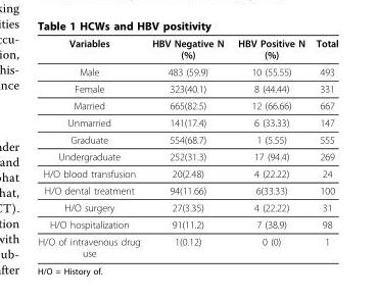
<table><thead><tr><td>Variables</td><td>HBV Negative N (%)</td><td>HBV Positive N (%)</td><td>Total</td></tr></thead><tbody><tr><td>Male</td><td>483 (59.9)</td><td>10 (55.55)</td><td>493</td></tr><tr><td>Female</td><td>323(40.1)</td><td>8 (44.44)</td><td>331</td></tr><tr><td>Married</td><td>665(82.5)</td><td>12 (66.66)</td><td>667</td></tr><tr><td>Unmarried</td><td>141(17.4)</td><td>6 (33.33)</td><td>147</td></tr><tr><td>Graduate</td><td>554(68.7)</td><td>1 (5.55)</td><td>555</td></tr><tr><td>Undergraduate</td><td>252(31.3)</td><td>17 (94.4)</td><td>269</td></tr><tr><td>H/O blood transfusion</td><td>20(2.48)</td><td>4 (22.22)</td><td>24</td></tr><tr><td>H/O dental treatment</td><td>94(11.66)</td><td>6(33.33)</td><td>100</td></tr><tr><td>H/O surgery</td><td>27(3.35)</td><td>4 (22.22)</td><td>31</td></tr><tr><td>H/O hospitalization</td><td>91(11.2)</td><td>7 (38.9)</td><td>98</td></tr><tr><td>H/O of intravenous drug use</td><td>1(0.12)</td><td>0 (0)</td><td>1</td></tr></tbody></table>